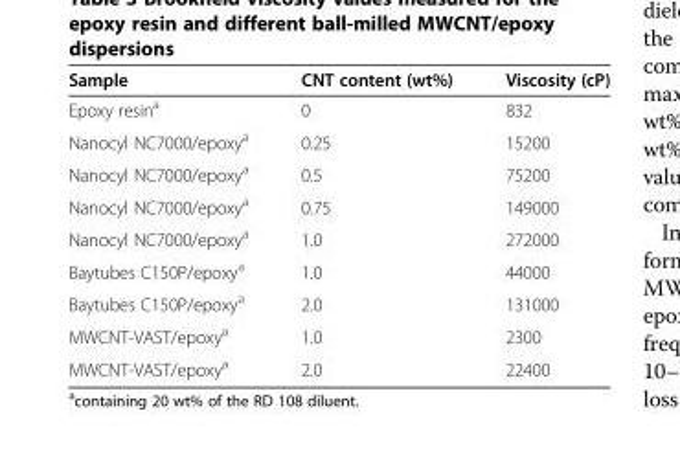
<table><thead><tr><td>Sample</td><td>CNT content (wt%)</td><td>Viscosity (cP)</td></tr></thead><tbody><tr><td>Epoxy resin<sup>a</sup></td><td>0</td><td>832</td></tr><tr><td>Nanocyl NC7000/epoxy<sup>a</sup></td><td>0.25</td><td>15200</td></tr><tr><td>Nanocyl NC7000/epoxy<sup>a</sup></td><td>0.5</td><td>75200</td></tr><tr><td>Nanocyl NC7000/epoxy<sup>a</sup></td><td>0.75</td><td>149000</td></tr><tr><td>Nanocyl NC7000/epoxy<sup>a</sup></td><td>1.0</td><td>272000</td></tr><tr><td>Baytubes C150P/epoxy<sup>a</sup></td><td>1.0</td><td>44000</td></tr><tr><td>Baytubes C150P/epoxy<sup>a</sup></td><td>2.0</td><td>131000</td></tr><tr><td>MWCNT-VAST/epoxy<sup>a</sup></td><td>1.0</td><td>2300</td></tr><tr><td>MWCNT-VAST/epoxy<sup>a</sup></td><td>2.0</td><td>22400</td></tr></tbody></table>